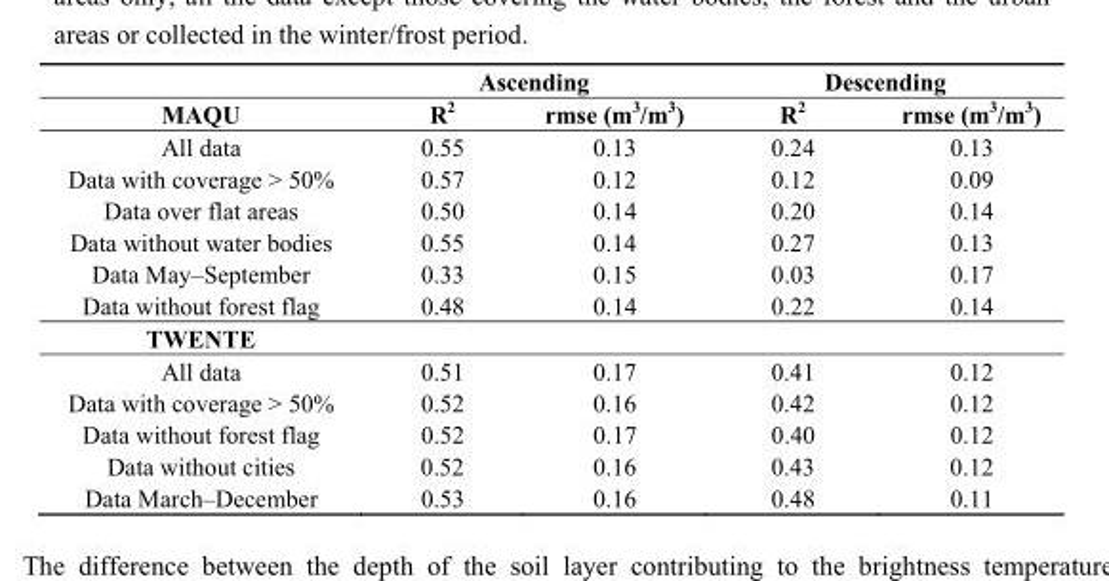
<table><thead><tr><td rowspan="2">MAQU</td><td colspan="2">Ascending</td><td colspan="2">Descending</td></tr><tr><td>R<sup>2</sup></td><td>rmse (m<sup>3</sup>/m<sup>3</sup>)</td><td>R<sup>2</sup></td><td>rmse (m<sup>3</sup>/m<sup>3</sup>)</td></tr></thead><tbody><tr><td>All data</td><td>0.55</td><td>0.13</td><td>0.24</td><td>0.13</td></tr><tr><td>Data with coverage &gt; 50%</td><td>0.57</td><td>0.12</td><td>0.12</td><td>0.09</td></tr><tr><td>Data over flat areas</td><td>0.50</td><td>0.14</td><td>0.20</td><td>0.14</td></tr><tr><td>Data without water bodies</td><td>0.55</td><td>0.14</td><td>0.27</td><td>0.13</td></tr><tr><td>Data May–September</td><td>0.33</td><td>0.15</td><td>0.03</td><td>0.17</td></tr><tr><td>Data without forest flag</td><td>0.48</td><td>0.14</td><td>0.22</td><td>0.14</td></tr><tr><td colspan="5">TWENTE</td></tr><tr><td>All data</td><td>0.51</td><td>0.17</td><td>0.41</td><td>0.12</td></tr><tr><td>Data with coverage &gt; 50%</td><td>0.52</td><td>0.16</td><td>0.42</td><td>0.12</td></tr><tr><td>Data without forest flag</td><td>0.52</td><td>0.17</td><td>0.40</td><td>0.12</td></tr><tr><td>Data without cities</td><td>0.52</td><td>0.16</td><td>0.43</td><td>0.12</td></tr><tr><td>Data March–December</td><td>0.53</td><td>0.16</td><td>0.48</td><td>0.11</td></tr></tbody></table>